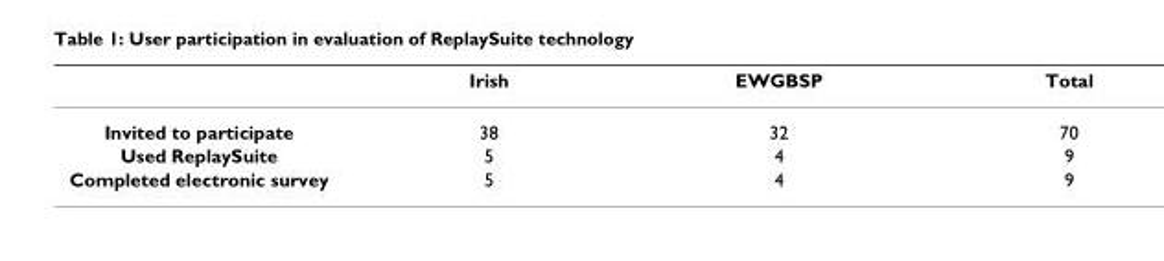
<table><thead><tr><td></td><td>Irish</td><td>EWGBSP</td><td>Total</td></tr></thead><tbody><tr><td>Invited to participate</td><td>38</td><td>32</td><td>70</td></tr><tr><td>Used ReplaySuite</td><td>5</td><td>4</td><td>9</td></tr><tr><td>Completed electronic survey</td><td>5</td><td>4</td><td>9</td></tr></tbody></table>